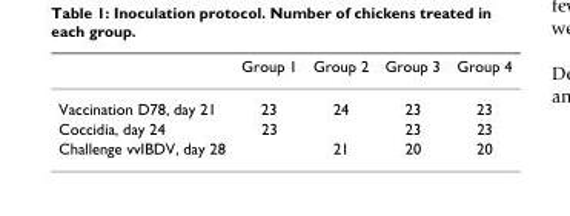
<table><thead><tr><td></td><td>Group 1</td><td>Group 2</td><td>Group 3</td><td>Group 4</td></tr></thead><tbody><tr><td>Vaccination D78, day 21</td><td>23</td><td>24</td><td>23</td><td>23</td></tr><tr><td>Coccidia, day 24</td><td>23</td><td></td><td>23</td><td>23</td></tr><tr><td>Challenge vvIBDV, day 28</td><td></td><td>21</td><td>20</td><td>20</td></tr></tbody></table>